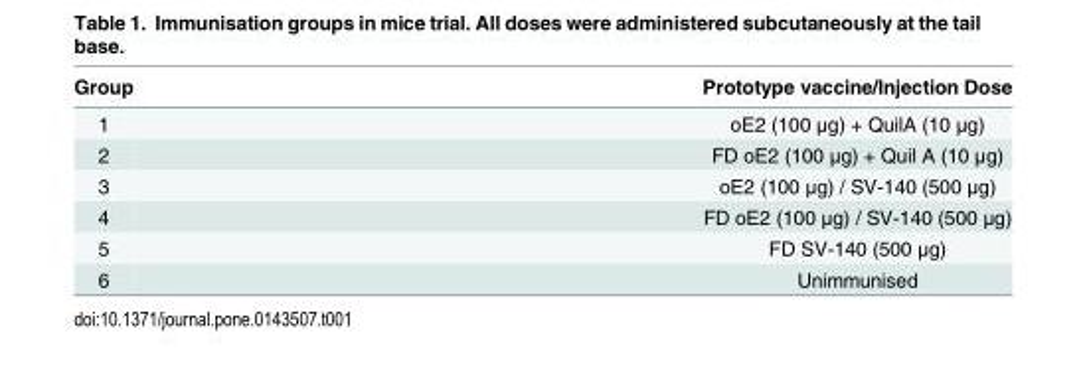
<table><thead><tr><td>Group</td><td>Prototype vaccine/Injection Dose</td></tr></thead><tbody><tr><td>1</td><td>oE2 (100 μg) + QuilA (10 μg)</td></tr><tr><td>2</td><td>FD oE2 (100 μg) + Quil A (10 μg)</td></tr><tr><td>3</td><td>oE2 (100 μg) / SV-140 (500 μg)</td></tr><tr><td>4</td><td>FD oE2 (100 μg) / SV-140 (500 μg)</td></tr><tr><td>5</td><td>FD SV-140 (500 μg)</td></tr><tr><td>6</td><td>Unimmunised</td></tr></tbody></table>